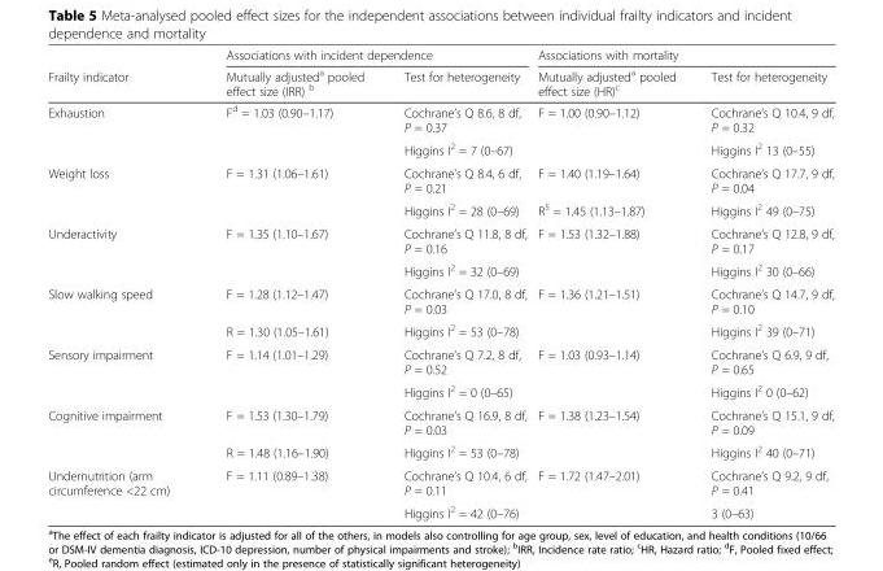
<table><thead><tr><td rowspan="2">Frailty indicator</td><td colspan="2">Associations with incident dependence</td><td colspan="2">Associations with mortality</td></tr><tr><td>Mutually adjusted<sup>a</sup> pooled effect size (IRR) <sup>b</sup></td><td>Test for heterogeneity</td><td>Mutually adjusted<sup>a</sup> pooled effect size (HR)<sup>c</sup></td><td>Test for heterogeneity</td></tr></thead><tbody><tr><td rowspan="2">Exhaustion</td><td rowspan="2">F<sup>d</sup> = 1.03 (0.90–1.17)</td><td>Cochrane’s Q 8.6, 8 df, P = 0.37</td><td rowspan="2">F = 1.00 (0.90–1.12)</td><td>Cochrane’s Q 10.4, 9 df, P = 0.32</td></tr><tr><td>Higgins I<sup>2</sup> = 7 (0–67)</td><td>Higgins I<sup>2</sup> 13 (0–55)</td></tr><tr><td rowspan="2">Weight loss</td><td rowspan="2">F = 1.31 (1.06–1.61)</td><td>Cochrane’s Q 8.4, 6 df, P = 0.21</td><td>F = 1.40 (1.19–1.64)</td><td>Cochrane’s Q 17.7, 9 df, P = 0.04</td></tr><tr><td>Higgins I<sup>2</sup> = 28 (0–69)</td><td>R<sup>5</sup> = 1.45 (1.13–1.87)</td><td>Higgins I<sup>2</sup> 49 (0–75)</td></tr><tr><td rowspan="2">Underactivity</td><td rowspan="2">F = 1.35 (1.10–1.67)</td><td>Cochrane’s Q 11.8, 8 df, P = 0.16</td><td rowspan="2">F = 1.53 (1.32–1.88)</td><td>Cochrane’s Q 12.8, 9 df, P = 0.17</td></tr><tr><td>Higgins I<sup>2</sup> = 32 (0–69)</td><td>Higgins I<sup>2</sup> 30 (0–66)</td></tr><tr><td rowspan="2">Slow walking speed</td><td>F = 1.28 (1.12–1.47)</td><td>Cochrane’s Q 17.0, 8 df, P = 0.03</td><td rowspan="2">F = 1.36 (1.21–1.51)</td><td>Cochrane’s Q 14.7, 9 df, P = 0.10</td></tr><tr><td>R = 1.30 (1.05–1.61)</td><td>Higgins I<sup>2</sup> = 53 (0–78)</td><td>Higgins I<sup>2</sup> 39 (0–71)</td></tr><tr><td rowspan="2">Sensory impairment</td><td rowspan="2">F = 1.14 (1.01–1.29)</td><td>Cochrane’s Q 7.2, 8 df, P = 0.52</td><td rowspan="2">F = 1.03 (0.93–1.14)</td><td>Cochrane’s Q 6.9, 9 df, P = 0.65</td></tr><tr><td>Higgins I<sup>2</sup> = 0 (0–65)</td><td>Higgins I<sup>2</sup> 0 (0–62)</td></tr><tr><td rowspan="2">Cognitive impairment</td><td>F = 1.53 (1.30–1.79)</td><td>Cochrane’s Q 16.9, 8 df, P = 0.03</td><td rowspan="2">F = 1.38 (1.23–1.54)</td><td>Cochrane’s Q 15.1, 9 df, P = 0.09</td></tr><tr><td>R = 1.48 (1.16–1.90)</td><td>Higgins I<sup>2</sup> = 53 (0–78)</td><td>Higgins I<sup>2</sup> 40 (0–71)</td></tr><tr><td rowspan="2">Undernutrition (arm circumference &lt;22 cm)</td><td rowspan="2">F = 1.11 (0.89–1.38)</td><td>Cochrane’s Q 10.4, 6 df, P = 0.11</td><td rowspan="2">F = 1.72 (1.47–2.01)</td><td>Cochrane’s Q 9.2, 9 df, P = 0.41</td></tr><tr><td>Higgins I<sup>2</sup> = 42 (0–76)</td><td>3 (0–63)</td></tr></tbody></table>